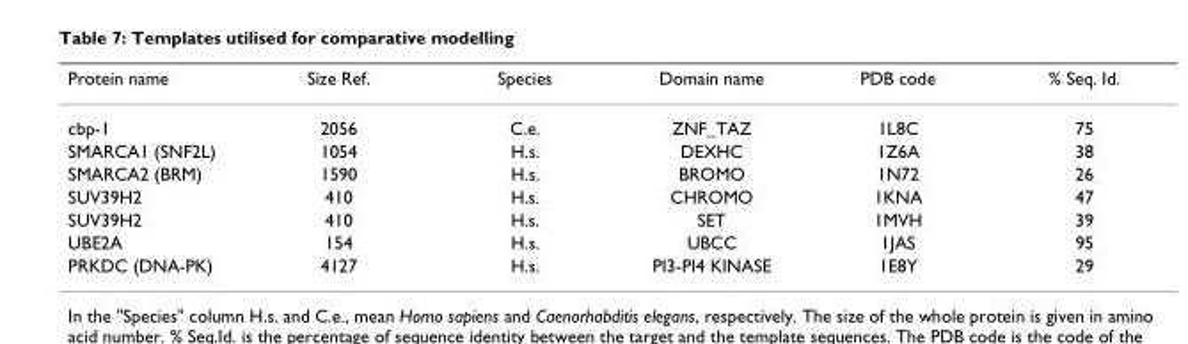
<table><thead><tr><td>Protein name</td><td>Size Ref.</td><td>Species</td><td>Domain name</td><td>PDB code</td><td>% Seq. Id.</td></tr></thead><tbody><tr><td>cbp-1</td><td>2056</td><td>C.e.</td><td>ZNF_TAZ</td><td>1L8C</td><td>75</td></tr><tr><td>SMARCA1 (SNF2L)</td><td>1054</td><td>H.s.</td><td>DEXHC</td><td>1Z6A</td><td>38</td></tr><tr><td>SMARCA2 (BRM)</td><td>1590</td><td>H.s.</td><td>BROMO</td><td>1N72</td><td>26</td></tr><tr><td>SUV39H2</td><td>410</td><td>H.s.</td><td>CHROMO</td><td>1KNA</td><td>47</td></tr><tr><td>SUV39H2</td><td>410</td><td>H.s.</td><td>SET</td><td>1MVH</td><td>39</td></tr><tr><td>UBE2A</td><td>154</td><td>H.s.</td><td>UBCC</td><td>1JAS</td><td>95</td></tr><tr><td>PRKDC (DNA-PK)</td><td>4127</td><td>H.s.</td><td>PI3-PI4 KINASE</td><td>1E8Y</td><td>29</td></tr></tbody></table>